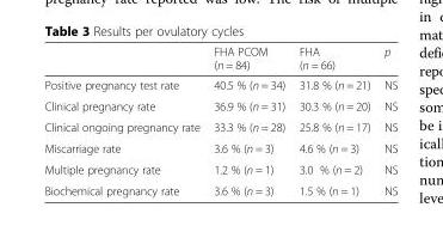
<table><thead><tr><td></td><td>FHA PCOM (n = 84)</td><td>FHA (n = 66)</td><td>p</td></tr></thead><tbody><tr><td>Positive pregnancy test rate</td><td>40.5 % (n = 34)</td><td>31.8 % (n = 21)</td><td>NS</td></tr><tr><td>Clinical pregnancy rate</td><td>36.9 % (n = 31)</td><td>30.3 % (n = 20)</td><td>NS</td></tr><tr><td>Clinical ongoing pregnancy rate</td><td>33.3 % (n = 28)</td><td>25.8 % (n = 17)</td><td>NS</td></tr><tr><td>Miscarriage rate</td><td>3.6 % (n = 3)</td><td>4.6 % (n = 3)</td><td>NS</td></tr><tr><td>Multiple pregnancy rate</td><td>1.2 % (n = 1)</td><td>3.0 % (n = 2)</td><td>NS</td></tr><tr><td>Biochemical pregnancy rate</td><td>3.6 % (n = 3)</td><td>1.5 % (n = 1)</td><td>NS</td></tr></tbody></table>